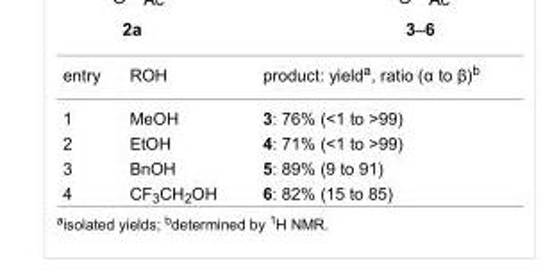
<table><tbody><tr><td>entry</td><td>ROH</td><td>product: yield<sup>a</sup>, ratio (α to β)<sup>b</sup></td></tr><tr><td>1</td><td>MeOH</td><td>3: 76% (&lt;1 to &gt;99)</td></tr><tr><td>2</td><td>EtOH</td><td>4: 71% (&lt;1 to &gt;99)</td></tr><tr><td>3</td><td>BnOH</td><td>5: 89% (9 to 91)</td></tr><tr><td>4</td><td>CF<sub>3</sub>CH<sub>2</sub>OH</td><td>6: 82% (15 to 85)</td></tr></tbody></table>